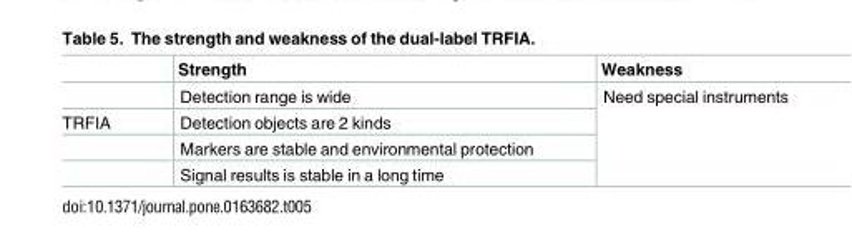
<table><thead><tr><td></td><td>Strength</td><td>Weakness</td></tr></thead><tbody><tr><td></td><td>Detection range is wide</td><td rowspan="4">Need special instruments</td></tr><tr><td rowspan="3">TRFIA</td><td>Detection objects are 2 kinds</td></tr><tr><td>Markers are stable and environmental protection</td></tr><tr><td>Signal results is stable in a long time</td></tr></tbody></table>